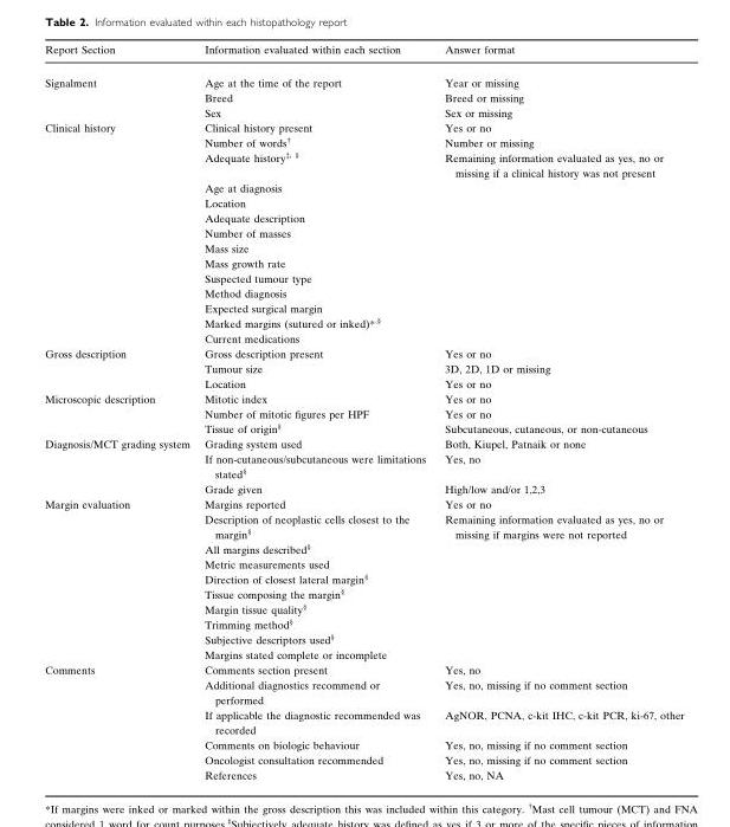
<table><thead><tr><td>Report Section</td><td>Information evaluated within each section</td><td>Answer format</td></tr></thead><tbody><tr><td rowspan="3">Signalment</td><td>Age at the time of the report</td><td>Year or missing</td></tr><tr><td>Breed</td><td>Breed or missing</td></tr><tr><td>Sex</td><td>Sex or missing</td></tr><tr><td rowspan="14">Clinical history</td><td>Clinical history present</td><td>Yes or no</td></tr><tr><td>Number of words†</td><td>Number or missing</td></tr><tr><td>Adequate history‡, §</td><td>Remaining information evaluated as yes, no or missing if a clinical history was not present</td></tr><tr><td>Age at diagnosis</td><td></td></tr><tr><td>Location</td><td></td></tr><tr><td>Adequate description</td><td></td></tr><tr><td>Number of masses</td><td></td></tr><tr><td>Mass size</td><td></td></tr><tr><td>Mass growth rate</td><td></td></tr><tr><td>Suspected tumour type</td><td></td></tr><tr><td>Method diagnosis</td><td></td></tr><tr><td>Expected surgical margin</td><td></td></tr><tr><td>Marked margins (sutured or inked)*,§</td><td rowspan="2"></td></tr><tr><td>Current medications</td></tr><tr><td rowspan="3">Gross description</td><td>Gross description present</td><td>Yes or no</td></tr><tr><td>Tumour size</td><td>3D, 2D, 1D or missing</td></tr><tr><td>Location</td><td>Yes or no</td></tr><tr><td rowspan="3">Microscopic description</td><td>Mitotic index</td><td>Yes or no</td></tr><tr><td>Number of mitotic figures per HPF</td><td>Yes or no</td></tr><tr><td>Tissue of origin§</td><td>Subcutaneous, cutaneous, or non-cutaneous</td></tr><tr><td rowspan="3">Diagnosis/MCT grading system</td><td>Grading system used</td><td>Both, Kiupel, Patnaik or none</td></tr><tr><td>If non-cutaneous/subcutaneous were limitations stated§</td><td>Yes, no</td></tr><tr><td>Grade given</td><td>High/low and/or 1,2,3</td></tr><tr><td rowspan="10">Margin evaluation</td><td>Margins reported</td><td>Yes or no</td></tr><tr><td>Description of neoplastic cells closest to the margin§</td><td>Remaining information evaluated as yes, no or missing if margins were not reported</td></tr><tr><td>All margins described§</td><td></td></tr><tr><td>Metric measurements used</td><td></td></tr><tr><td>Direction of closest lateral margin§</td><td></td></tr><tr><td>Tissue composing the margin§</td><td></td></tr><tr><td>Margin tissue quality§</td><td></td></tr><tr><td>Trimming method§</td><td></td></tr><tr><td>Subjective descriptors used§</td><td></td></tr><tr><td>Margins stated complete or incomplete</td><td></td></tr><tr><td rowspan="6">Comments</td><td>Comments section present</td><td>Yes, no</td></tr><tr><td>Additional diagnostics recommend or performed</td><td>Yes, no, missing if no comment section</td></tr><tr><td>If applicable the diagnostic recommended was recorded</td><td>AgNOR, PCNA, c-kit IHC, c-kit PCR, ki-67, other</td></tr><tr><td>Comments on biologic behaviour</td><td>Yes, no, missing if no comment section</td></tr><tr><td>Oncologist consultation recommended</td><td>Yes, no, missing if no comment section</td></tr><tr><td>References</td><td>Yes, no, NA</td></tr></tbody></table>